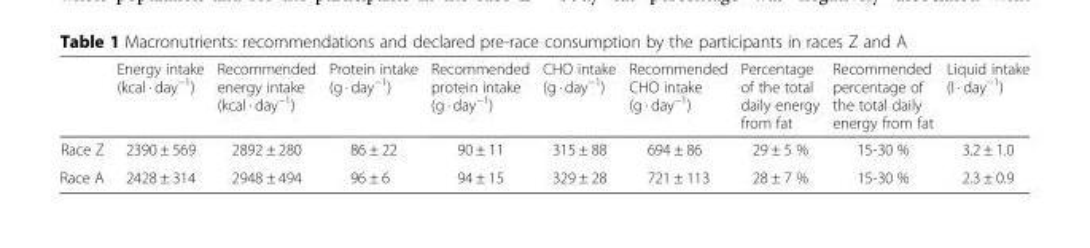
<table><thead><tr><td></td><td>Energy intake (kcal · day<sup>−1</sup>)</td><td>Recommended energy intake (kcal · day<sup>−1</sup>)</td><td>Protein intake (g · day<sup>−1</sup>)</td><td>Recommended protein intake (g · day<sup>−1</sup>)</td><td>CHO intake (g · day<sup>−1</sup>)</td><td>Recommended CHO intake (g · day<sup>−1</sup>)</td><td>Percentage of the total daily energy from fat</td><td>Recommended percentage of the total daily energy from fat</td><td>Liquid intake (l · day<sup>−1</sup>)</td></tr></thead><tbody><tr><td>Race Z</td><td>2390 ± 569</td><td>2892 ± 280</td><td>86 ± 22</td><td>90 ± 11</td><td>315 ± 88</td><td>694 ± 86</td><td>29 ± 5 %</td><td>15-30 %</td><td>3.2 ± 1.0</td></tr><tr><td>Race A</td><td>2428 ± 314</td><td>2948 ± 494</td><td>96 ± 6</td><td>94 ± 15</td><td>329 ± 28</td><td>721 ± 113</td><td>28 ± 7 %</td><td>15-30 %</td><td>2.3 ± 0.9</td></tr></tbody></table>